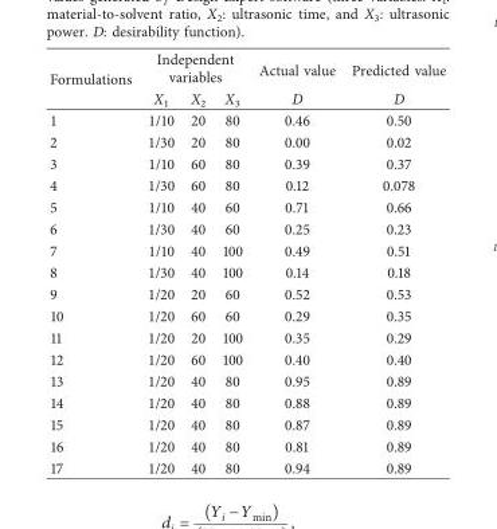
<table><thead><tr><td rowspan="2">Formulations</td><td colspan="3">Independent variables</td><td rowspan="2">Actual value D</td><td rowspan="2">Predicted value D</td></tr><tr><td>X<sub>1</sub></td><td>X<sub>2</sub></td><td>X<sub>3</sub></td></tr></thead><tbody><tr><td>1</td><td>1/10</td><td>20</td><td>80</td><td>0.46</td><td>0.50</td></tr><tr><td>2</td><td>1/30</td><td>20</td><td>80</td><td>0.00</td><td>0.02</td></tr><tr><td>3</td><td>1/10</td><td>60</td><td>80</td><td>0.39</td><td>0.37</td></tr><tr><td>4</td><td>1/30</td><td>60</td><td>80</td><td>0.12</td><td>0.078</td></tr><tr><td>5</td><td>1/10</td><td>40</td><td>60</td><td>0.71</td><td>0.66</td></tr><tr><td>6</td><td>1/30</td><td>40</td><td>60</td><td>0.25</td><td>0.23</td></tr><tr><td>7</td><td>1/10</td><td>40</td><td>100</td><td>0.49</td><td>0.51</td></tr><tr><td>8</td><td>1/30</td><td>40</td><td>100</td><td>0.14</td><td>0.18</td></tr><tr><td>9</td><td>1/20</td><td>20</td><td>60</td><td>0.52</td><td>0.53</td></tr><tr><td>10</td><td>1/20</td><td>60</td><td>60</td><td>0.29</td><td>0.35</td></tr><tr><td>11</td><td>1/20</td><td>20</td><td>100</td><td>0.35</td><td>0.29</td></tr><tr><td>12</td><td>1/20</td><td>60</td><td>100</td><td>0.40</td><td>0.40</td></tr><tr><td>13</td><td>1/20</td><td>40</td><td>80</td><td>0.95</td><td>0.89</td></tr><tr><td>14</td><td>1/20</td><td>40</td><td>80</td><td>0.88</td><td>0.89</td></tr><tr><td>15</td><td>1/20</td><td>40</td><td>80</td><td>0.87</td><td>0.89</td></tr><tr><td>16</td><td>1/20</td><td>40</td><td>80</td><td>0.81</td><td>0.89</td></tr><tr><td>17</td><td>1/20</td><td>40</td><td>80</td><td>0.94</td><td>0.89</td></tr></tbody></table>